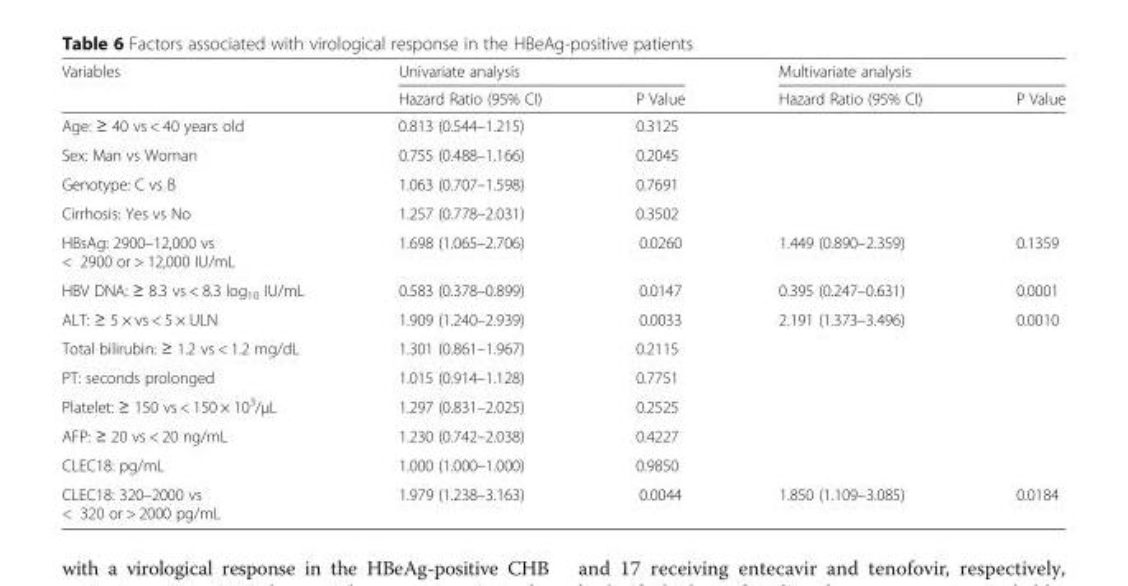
<table><thead><tr><td rowspan="2">Variables</td><td colspan="2">Univariate analysis</td><td colspan="2">Multivariate analysis</td></tr><tr><td>Hazard Ratio (95% CI)</td><td>P Value</td><td>Hazard Ratio (95% CI)</td><td>P Value</td></tr></thead><tbody><tr><td>Age: ≥ 40 vs &lt; 40 years old</td><td>0.813 (0.544–1.215)</td><td colspan="3">0.3125</td></tr><tr><td>Sex: Man vs Woman</td><td>0.755 (0.488–1.166)</td><td colspan="3">0.2045</td></tr><tr><td>Genotype: C vs B</td><td>1.063 (0.707–1.598)</td><td colspan="3">0.7691</td></tr><tr><td>Cirrhosis: Yes vs No</td><td>1.257 (0.778–2.031)</td><td colspan="3">0.3502</td></tr><tr><td>HBsAg: 2900–12,000 vs &lt; 2900 or &gt; 12,000 IU/mL</td><td>1.698 (1.065–2.706)</td><td>0.0260</td><td>1.449 (0.890–2.359)</td><td>0.1359</td></tr><tr><td>HBV DNA: ≥ 8.3 vs &lt; 8.3 log<sub>10</sub> IU/mL</td><td>0.583 (0.378–0.899)</td><td>0.0147</td><td>0.395 (0.247–0.631)</td><td>0.0001</td></tr><tr><td>ALT: ≥ 5 × vs &lt; 5 × ULN</td><td>1.909 (1.240–2.939)</td><td>0.0033</td><td>2.191 (1.373–3.496)</td><td>0.0010</td></tr><tr><td>Total bilirubin: ≥ 1.2 vs &lt; 1.2 mg/dL</td><td>1.301 (0.861–1.967)</td><td colspan="3">0.2115</td></tr><tr><td>PT: seconds prolonged</td><td>1.015 (0.914–1.128)</td><td colspan="3">0.7751</td></tr><tr><td>Platelet: ≥ 150 vs &lt; 150 × 10<sup>3</sup>/μL</td><td>1.297 (0.831–2.025)</td><td colspan="3">0.2525</td></tr><tr><td>AFP: ≥ 20 vs &lt; 20 ng/mL</td><td>1.230 (0.742–2.038)</td><td colspan="3">0.4227</td></tr><tr><td>CLEC18: pg/mL</td><td>1.000 (1.000–1.000)</td><td colspan="3">0.9850</td></tr><tr><td>CLEC18: 320–2000 vs &lt; 320 or &gt; 2000 pg/mL</td><td>1.979 (1.238–3.163)</td><td>0.0044</td><td>1.850 (1.109–3.085)</td><td>0.0184</td></tr></tbody></table>